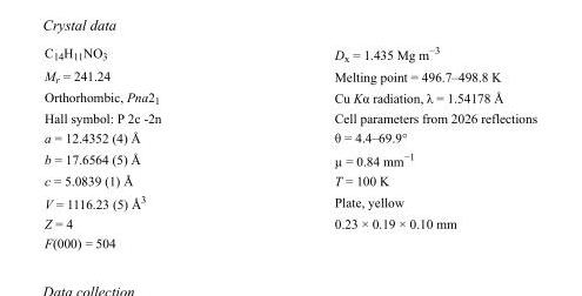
<table><tbody><tr><td>C<sub>14</sub>H<sub>11</sub>NO<sub>3</sub></td><td>D<sub>x</sub> = 1.435 Mg m<sup>−3</sup></td></tr><tr><td>M<sub>r</sub> = 241.24</td><td>Melting point = 496.7–498.8 K</td></tr><tr><td>Orthorhombic, Pna2<sub>1</sub></td><td>Cu Kα radiation, λ = 1.54178 Å</td></tr><tr><td>Hall symbol: P 2c -2n</td><td>Cell parameters from 2026 reflections</td></tr><tr><td>a = 12.4352 (4) Å</td><td>θ = 4.4–69.9°</td></tr><tr><td>b = 17.6564 (5) Å</td><td>µ = 0.84 mm<sup>−1</sup></td></tr><tr><td>c = 5.0839 (1) Å</td><td>T = 100 K</td></tr><tr><td>V = 1116.23 (5) Å<sup>3</sup></td><td>Plate, yellow</td></tr><tr><td>Z = 4</td><td>0.23 × 0.19 × 0.10 mm</td></tr><tr><td>F(000) = 504</td><td></td></tr></tbody></table>